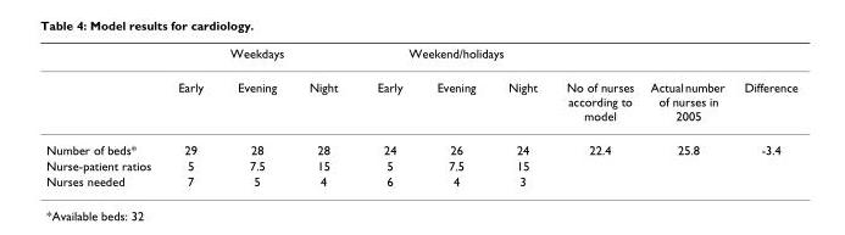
<table><thead><tr><td rowspan="2"></td><td colspan="3">Weekdays</td><td colspan="3">Weekend/holidays</td><td rowspan="2">No of nurses according to model</td><td rowspan="2">Actual number of nurses in 2005</td><td rowspan="2">Difference</td></tr><tr><td>Early</td><td>Evening</td><td>Night</td><td>Early</td><td>Evening</td><td>Night</td></tr></thead><tbody><tr><td>Number of beds*</td><td>29</td><td>28</td><td>28</td><td>24</td><td>26</td><td>24</td><td>22.4</td><td>25.8</td><td>-3.4</td></tr><tr><td>Nurse-patient ratios</td><td>5</td><td>7.5</td><td>15</td><td>5</td><td>7.5</td><td>15</td><td></td><td></td><td></td></tr><tr><td>Nurses needed</td><td>7</td><td>5</td><td>4</td><td>6</td><td>4</td><td>3</td><td></td><td></td><td></td></tr></tbody></table>